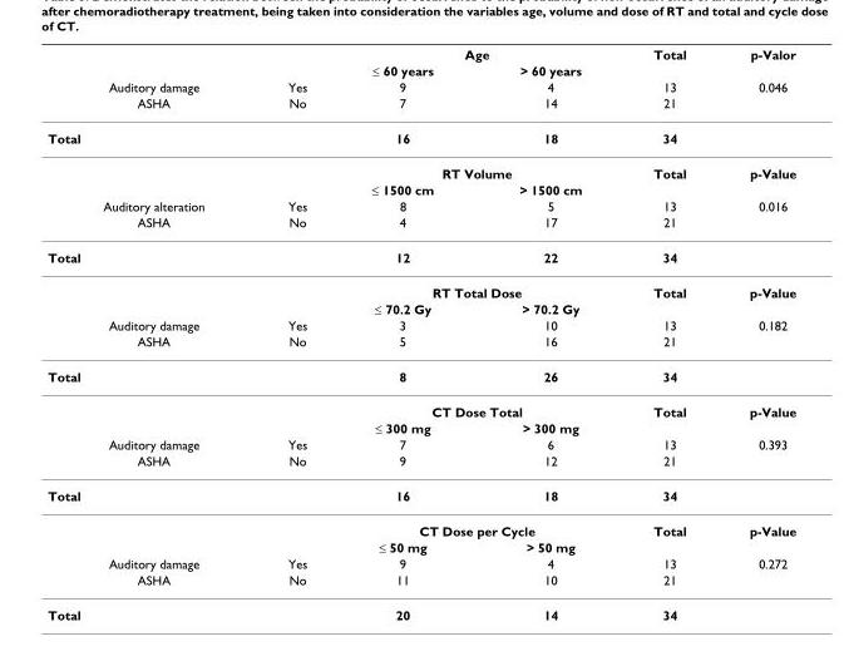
<table><thead><tr><td rowspan="4">Auditory damage ASHA</td><td rowspan="4">Yes No</td><td colspan="2">Age</td><td rowspan="4">Total 13 21</td><td rowspan="4">p-Valor 0.046</td></tr><tr><td rowspan="3">≤ 60 years 9 7</td><td rowspan="3">&gt; 60 years 4 14</td></tr><tr></tr><tr></tr></thead><tbody><tr><td rowspan="3">Total</td><td></td><td>16</td><td>18</td><td>34</td><td></td></tr><tr><td></td><td colspan="2">RT Volume</td><td>Total</td><td>p-Value</td></tr><tr><td></td><td>≤ 1500 cm</td><td>&gt; 1500 cm</td><td></td><td></td></tr><tr><td>Auditory alteration</td><td>Yes</td><td>8</td><td>5</td><td>13</td><td>0.016</td></tr><tr><td>ASHA</td><td>No</td><td>4</td><td>17</td><td>21</td><td></td></tr><tr><td rowspan="3">Total</td><td></td><td>12</td><td>22</td><td>34</td><td></td></tr><tr><td></td><td colspan="2">RT Total Dose</td><td>Total</td><td>p-Value</td></tr><tr><td></td><td>≤ 70.2 Gy</td><td>&gt; 70.2 Gy</td><td></td><td></td></tr><tr><td>Auditory damage</td><td>Yes</td><td>3</td><td>10</td><td>13</td><td>0.182</td></tr><tr><td>ASHA</td><td>No</td><td>5</td><td>16</td><td>21</td><td></td></tr><tr><td rowspan="3">Total</td><td></td><td>8</td><td>26</td><td>34</td><td></td></tr><tr><td></td><td colspan="2">CT Dose Total</td><td>Total</td><td>p-Value</td></tr><tr><td></td><td>≤ 300 mg</td><td>&gt; 300 mg</td><td></td><td></td></tr><tr><td>Auditory damage</td><td>Yes</td><td>7</td><td>6</td><td>13</td><td>0.393</td></tr><tr><td>ASHA</td><td>No</td><td>9</td><td>12</td><td>21</td><td></td></tr><tr><td rowspan="3">Total</td><td></td><td>16</td><td>18</td><td>34</td><td></td></tr><tr><td></td><td colspan="2">CT Dose per Cycle</td><td>Total</td><td>p-Value</td></tr><tr><td></td><td>≤ 50 mg</td><td>&gt; 50 mg</td><td></td><td></td></tr><tr><td>Auditory damage</td><td>Yes</td><td>9</td><td>4</td><td>13</td><td>0.272</td></tr><tr><td>ASHA</td><td>No</td><td>11</td><td>10</td><td>21</td><td></td></tr><tr><td>Total</td><td></td><td>20</td><td>14</td><td>34</td><td></td></tr></tbody></table>